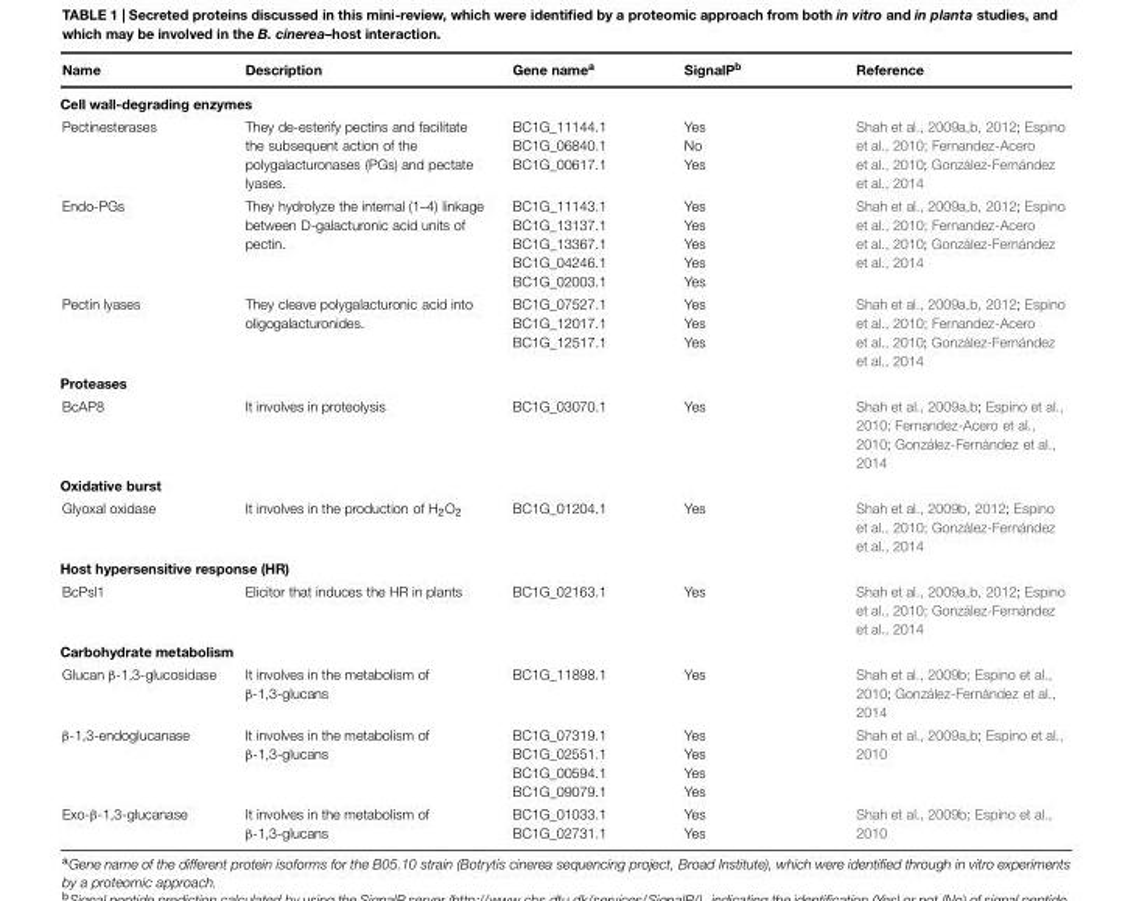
<table><thead><tr><td>Name</td><td>Description</td><td>Gene name<sup>a</sup></td><td>SignalP<sup>b</sup></td><td>Reference</td></tr></thead><tbody><tr><td colspan="5">Cell wall-degrading enzymes</td></tr><tr><td>Pectinesterases</td><td>They de-esterify pectins and facilitate the subsequent action of the polygalacturonases (PGs) and pectate lyases.</td><td>BC1G_11144.1 BC1G_06840.1 BC1G_00617.1</td><td>Yes No Yes</td><td>Shah et al., 2009a,b, 2012; Espino et al., 2010; Fernandez-Acero et al., 2010; González-Fernández et al., 2014</td></tr><tr><td>Endo-PGs</td><td>They hydrolyze the internal (1–4) linkage between D-galacturonic acid units of pectin.</td><td>BC1G_11143.1 BC1G_13137.1 BC1G_13367.1 BC1G_04246.1 BC1G_02003.1</td><td>Yes Yes Yes Yes Yes</td><td>Shah et al., 2009a,b, 2012; Espino et al., 2010; Fernandez-Acero et al., 2010; González-Fernández et al., 2014</td></tr><tr><td>Pectin lyases</td><td>They cleave polygalacturonic acid into oligogalacturonides.</td><td>BC1G_07527.1 BC1G_12017.1 BC1G_12517.1</td><td>Yes Yes Yes</td><td>Shah et al., 2009a,b, 2012; Espino et al., 2010; Fernandez-Acero et al., 2010; González-Fernández et al., 2014</td></tr><tr><td colspan="5">Proteases</td></tr><tr><td>BcAP8</td><td>It involves in proteolysis</td><td>BC1G_03070.1</td><td>Yes</td><td>Shah et al., 2009a,b; Espino et al., 2010; Fernandez-Acero et al., 2010; González-Fernández et al., 2014</td></tr><tr><td colspan="5">Oxidative burst</td></tr><tr><td>Glyoxal oxidase</td><td>It involves in the production of H<sub>2</sub>O<sub>2</sub></td><td>BC1G_01204.1</td><td>Yes</td><td>Shah et al., 2009b, 2012; Espino et al., 2010; González-Fernández et al., 2014</td></tr><tr><td colspan="5">Host hypersensitive response (HR)</td></tr><tr><td>BcPsl1</td><td>Elicitor that induces the HR in plants</td><td>BC1G_02163.1</td><td>Yes</td><td>Shah et al., 2009a,b, 2012; Espino et al., 2010; González-Fernández et al., 2014</td></tr><tr><td colspan="5">Carbohydrate metabolism</td></tr><tr><td>Glucan β-1,3-glucosidase</td><td>It involves in the metabolism of β-1,3-glucans</td><td>BC1G_11898.1</td><td>Yes</td><td>Shah et al., 2009b; Espino et al., 2010; González-Fernández et al., 2014</td></tr><tr><td>β-1,3-endoglucanase</td><td>It involves in the metabolism of β-1,3-glucans</td><td>BC1G_07319.1 BC1G_02551.1 BC1G_00594.1 BC1G_09079.1</td><td>Yes Yes Yes Yes</td><td>Shah et al., 2009a,b; Espino et al., 2010</td></tr><tr><td>Exo-β-1,3-glucanase</td><td>It involves in the metabolism of β-1,3-glucans</td><td>BC1G_01033.1 BC1G_02731.1</td><td>Yes Yes</td><td>Shah et al., 2009b; Espino et al., 2010</td></tr></tbody></table>